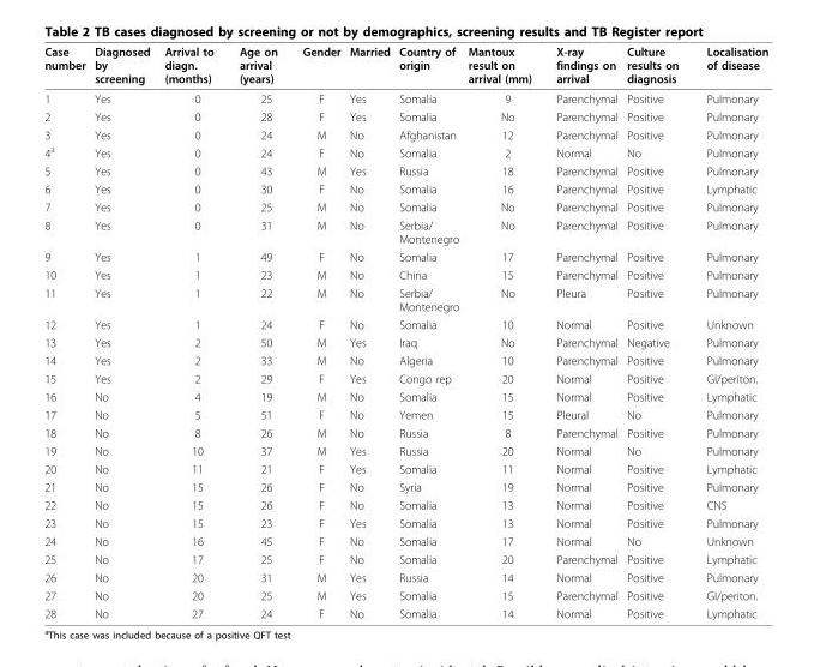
<table><thead><tr><td>Case number</td><td>Diagnosed by screening</td><td>Arrival to diagn. (months)</td><td>Age on arrival (years)</td><td>Gender</td><td>Married</td><td>Country of origin</td><td>Mantoux result on arrival (mm)</td><td>X-ray findings on arrival</td><td>Culture results on diagnosis</td><td>Localisation of disease</td></tr></thead><tbody><tr><td>1</td><td>Yes</td><td>0</td><td>25</td><td>F</td><td>Yes</td><td>Somalia</td><td>9</td><td>Parenchymal</td><td>Positive</td><td>Pulmonary</td></tr><tr><td>2</td><td>Yes</td><td>0</td><td>28</td><td>F</td><td>Yes</td><td>Somalia</td><td>No</td><td>Parenchymal</td><td>Positive</td><td>Pulmonary</td></tr><tr><td>3</td><td>Yes</td><td>0</td><td>24</td><td>M</td><td>No</td><td>Afghanistan</td><td>12</td><td>Parenchymal</td><td>Positive</td><td>Pulmonary</td></tr><tr><td>4<sup>a</sup></td><td>Yes</td><td>0</td><td>24</td><td>F</td><td>No</td><td>Somalia</td><td>2</td><td>Normal</td><td>No</td><td>Pulmonary</td></tr><tr><td>5</td><td>Yes</td><td>0</td><td>43</td><td>M</td><td>Yes</td><td>Russia</td><td>18</td><td>Parenchymal</td><td>Positive</td><td>Pulmonary</td></tr><tr><td>6</td><td>Yes</td><td>0</td><td>30</td><td>F</td><td>No</td><td>Somalia</td><td>16</td><td>Parenchymal</td><td>Positive</td><td>Lymphatic</td></tr><tr><td>7</td><td>Yes</td><td>0</td><td>25</td><td>M</td><td>No</td><td>Somalia</td><td>No</td><td>Parenchymal</td><td>Positive</td><td>Pulmonary</td></tr><tr><td>8</td><td>Yes</td><td>0</td><td>31</td><td>M</td><td>No</td><td>Serbia/ Montenegro</td><td>No</td><td>Parenchymal</td><td>Positive</td><td>Pulmonary</td></tr><tr><td>9</td><td>Yes</td><td>1</td><td>49</td><td>F</td><td>No</td><td>Somalia</td><td>17</td><td>Parenchymal</td><td>Positive</td><td>Pulmonary</td></tr><tr><td>10</td><td>Yes</td><td>1</td><td>23</td><td>M</td><td>No</td><td>China</td><td>15</td><td>Parenchymal</td><td>Positive</td><td>Pulmonary</td></tr><tr><td>11</td><td>Yes</td><td>1</td><td>22</td><td>M</td><td>No</td><td>Serbia/ Montenegro</td><td>No</td><td>Pleura</td><td>Positive</td><td>Pulmonary</td></tr><tr><td>12</td><td>Yes</td><td>1</td><td>24</td><td>F</td><td>No</td><td>Somalia</td><td>10</td><td>Normal</td><td>Positive</td><td>Unknown</td></tr><tr><td>13</td><td>Yes</td><td>2</td><td>50</td><td>M</td><td>Yes</td><td>Iraq</td><td>No</td><td>Parenchymal</td><td>Negative</td><td>Pulmonary</td></tr><tr><td>14</td><td>Yes</td><td>2</td><td>33</td><td>M</td><td>No</td><td>Algeria</td><td>10</td><td>Parenchymal</td><td>Positive</td><td>Pulmonary</td></tr><tr><td>15</td><td>Yes</td><td>2</td><td>29</td><td>F</td><td>Yes</td><td>Congo rep</td><td>20</td><td>Normal</td><td>Positive</td><td>GI/periton.</td></tr><tr><td>16</td><td>No</td><td>4</td><td>19</td><td>M</td><td>No</td><td>Somalia</td><td>15</td><td>Normal</td><td>Positive</td><td>Lymphatic</td></tr><tr><td>17</td><td>No</td><td>5</td><td>51</td><td>F</td><td>No</td><td>Yemen</td><td>15</td><td>Pleural</td><td>No</td><td>Pulmonary</td></tr><tr><td>18</td><td>No</td><td>8</td><td>26</td><td>M</td><td>No</td><td>Russia</td><td>8</td><td>Parenchymal</td><td>Positive</td><td>Pulmonary</td></tr><tr><td>19</td><td>No</td><td>10</td><td>37</td><td>M</td><td>Yes</td><td>Russia</td><td>20</td><td>Normal</td><td>No</td><td>Pulmonary</td></tr><tr><td>20</td><td>No</td><td>11</td><td>21</td><td>F</td><td>Yes</td><td>Somalia</td><td>11</td><td>Normal</td><td>Positive</td><td>Lymphatic</td></tr><tr><td>21</td><td>No</td><td>15</td><td>26</td><td>F</td><td>No</td><td>Syria</td><td>19</td><td>Normal</td><td>Positive</td><td>Pulmonary</td></tr><tr><td>22</td><td>No</td><td>15</td><td>26</td><td>F</td><td>No</td><td>Somalia</td><td>13</td><td>Normal</td><td>Positive</td><td>CNS</td></tr><tr><td>23</td><td>No</td><td>15</td><td>23</td><td>F</td><td>Yes</td><td>Somalia</td><td>13</td><td>Normal</td><td>Positive</td><td>Pulmonary</td></tr><tr><td>24</td><td>No</td><td>16</td><td>45</td><td>F</td><td>No</td><td>Somalia</td><td>17</td><td>Normal</td><td>No</td><td>Unknown</td></tr><tr><td>25</td><td>No</td><td>17</td><td>25</td><td>F</td><td>No</td><td>Somalia</td><td>20</td><td>Parenchymal</td><td>Positive</td><td>Lymphatic</td></tr><tr><td>26</td><td>No</td><td>20</td><td>31</td><td>M</td><td>Yes</td><td>Russia</td><td>14</td><td>Normal</td><td>Positive</td><td>Pulmonary</td></tr><tr><td>27</td><td>No</td><td>20</td><td>25</td><td>M</td><td>Yes</td><td>Somalia</td><td>15</td><td>Parenchymal</td><td>Positive</td><td>GI/periton.</td></tr><tr><td>28</td><td>No</td><td>27</td><td>24</td><td>F</td><td>No</td><td>Somalia</td><td>14</td><td>Normal</td><td>Positive</td><td>Lymphatic</td></tr></tbody></table>